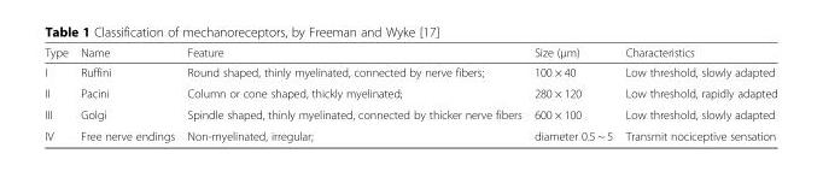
<table><thead><tr><td>Type</td><td>Name</td><td>Feature</td><td>Size (μm)</td><td>Characteristics</td></tr></thead><tbody><tr><td>I</td><td>Ruffini</td><td>Round shaped, thinly myelinated, connected by nerve fibers;</td><td>100 × 40</td><td>Low threshold, slowly adapted</td></tr><tr><td>II</td><td>Pacini</td><td>Column or cone shaped, thickly myelinated;</td><td>280 × 120</td><td>Low threshold, rapidly adapted</td></tr><tr><td>III</td><td>Golgi</td><td>Spindle shaped, thinly myelinated, connected by thicker nerve fibers</td><td>600 × 100</td><td>Low threshold, slowly adapted</td></tr><tr><td>IV</td><td>Free nerve endings</td><td>Non-myelinated, irregular;</td><td>diameter 0.5 ~ 5</td><td>Transmit nociceptive sensation</td></tr></tbody></table>